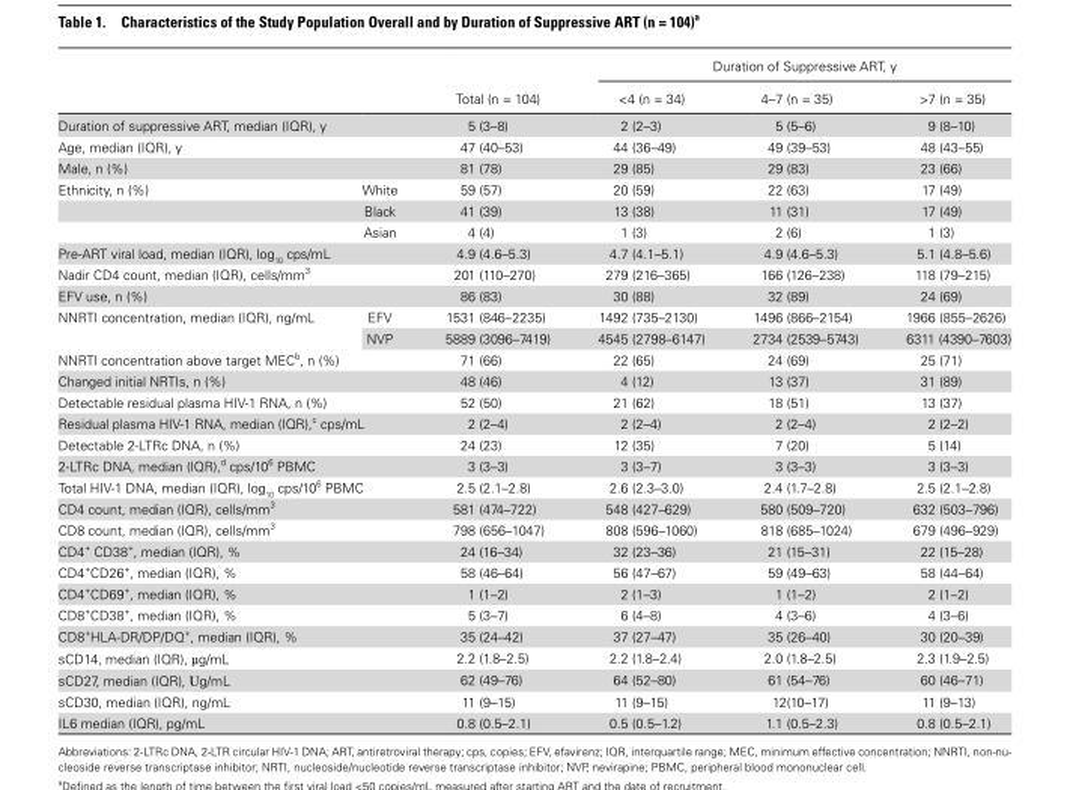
<table><thead><tr><td rowspan="2"></td><td rowspan="2"></td><td rowspan="2">Total (n = 104)</td><td colspan="3">Duration of Suppressive ART, y</td></tr><tr><td>&lt;4 (n = 34)</td><td>4–7 (n = 35)</td><td>&gt;7 (n = 35)</td></tr></thead><tbody><tr><td colspan="2">Duration of suppressive ART, median (IQR), y</td><td>5 (3–8)</td><td>2 (2–3)</td><td>5 (5–6)</td><td>9 (8–10)</td></tr><tr><td colspan="2">Age, median (IQR), y</td><td>47 (40–53)</td><td>44 (36–49)</td><td>49 (39–53)</td><td>48 (43–55)</td></tr><tr><td colspan="2">Male, n (%)</td><td>81 (78)</td><td>29 (85)</td><td>29 (83)</td><td>23 (66)</td></tr><tr><td rowspan="3">Ethnicity, n (%)</td><td>White</td><td>59 (57)</td><td>20 (59)</td><td>22 (63)</td><td>17 (49)</td></tr><tr><td>Black</td><td>41 (39)</td><td>13 (38)</td><td>11 (31)</td><td>17 (49)</td></tr><tr><td>Asian</td><td>4 (4)</td><td>1 (3)</td><td>2 (6)</td><td>1 (3)</td></tr><tr><td colspan="2">Pre-ART viral load, median (IQR), log<sub>10</sub> cps/mL</td><td>4.9 (4.6–5.3)</td><td>4.7 (4.1–5.1)</td><td>4.9 (4.6–5.3)</td><td>5.1 (4.8–5.6)</td></tr><tr><td colspan="2">Nadir CD4 count, median (IQR), cells/mm<sup>3</sup></td><td>201 (110–270)</td><td>279 (216–365)</td><td>166 (126–238)</td><td>118 (79–215)</td></tr><tr><td colspan="2">EFV use, n (%)</td><td>86 (83)</td><td>30 (88)</td><td>32 (89)</td><td>24 (69)</td></tr><tr><td rowspan="2">NNRTI concentration, median (IQR), ng/mL</td><td>EFV</td><td>1531 (846–2235)</td><td>1492 (735–2130)</td><td>1496 (866–2154)</td><td>1966 (855–2626)</td></tr><tr><td>NVP</td><td>5889 (3096–7419)</td><td>4545 (2798–6147)</td><td>2734 (2539–5743)</td><td>6311 (4390–7603)</td></tr><tr><td colspan="2">NNRTI concentration above target MEC<sup>b</sup>, n (%)</td><td>71 (66)</td><td>22 (65)</td><td>24 (69)</td><td>25 (71)</td></tr><tr><td colspan="2">Changed initial NRTIs, n (%)</td><td>48 (46)</td><td>4 (12)</td><td>13 (37)</td><td>31 (89)</td></tr><tr><td colspan="2">Detectable residual plasma HIV-1 RNA, n (%)</td><td>52 (50)</td><td>21 (62)</td><td>18 (51)</td><td>13 (37)</td></tr><tr><td colspan="2">Residual plasma HIV-1 RNA, median (IQR),<sup>c</sup> cps/mL</td><td>2 (2–4)</td><td>2 (2–4)</td><td>2 (2–4)</td><td>2 (2–2)</td></tr><tr><td colspan="2">Detectable 2-LTRc DNA, n (%)</td><td>24 (23)</td><td>12 (35)</td><td>7 (20)</td><td>5 (14)</td></tr><tr><td colspan="2">2-LTRc DNA, median (IQR),<sup>d</sup> cps/10<sup>6</sup> PBMC</td><td>3 (3–3)</td><td>3 (3–7)</td><td>3 (3–3)</td><td>3 (3–3)</td></tr><tr><td colspan="2">Total HIV-1 DNA, median (IQR), log<sub>10</sub> cps/10<sup>6</sup> PBMC</td><td>2.5 (2.1–2.8)</td><td>2.6 (2.3–3.0)</td><td>2.4 (1.7–2.8)</td><td>2.5 (2.1–2.8)</td></tr><tr><td colspan="2">CD4 count, median (IQR), cells/mm<sup>3</sup></td><td>581 (474–722)</td><td>548 (427–629)</td><td>580 (509–720)</td><td>632 (503–796)</td></tr><tr><td colspan="2">CD8 count, median (IQR), cells/mm<sup>3</sup></td><td>798 (656–1047)</td><td>808 (596–1060)</td><td>818 (685–1024)</td><td>679 (496–929)</td></tr><tr><td colspan="2">CD4<sup>+</sup> CD38<sup>+</sup>, median (IQR), %</td><td>24 (16–34)</td><td>32 (23–36)</td><td>21 (15–31)</td><td>22 (15–28)</td></tr><tr><td colspan="2">CD4<sup>+</sup>CD26<sup>+</sup>, median (IQR), %</td><td>58 (46–64)</td><td>56 (47–67)</td><td>59 (49–63)</td><td>58 (44–64)</td></tr><tr><td colspan="2">CD4<sup>+</sup>CD69<sup>+</sup>, median (IQR), %</td><td>1 (1–2)</td><td>2 (1–3)</td><td>1 (1–2)</td><td>2 (1–2)</td></tr><tr><td colspan="2">CD8<sup>+</sup>CD38<sup>+</sup>, median (IQR), %</td><td>5 (3–7)</td><td>6 (4–8)</td><td>4 (3–6)</td><td>4 (3–6)</td></tr><tr><td colspan="2">CD8<sup>+</sup>HLA-DR/DP/DQ<sup>+</sup>, median (IQR), %</td><td>35 (24–42)</td><td>37 (27–47)</td><td>35 (26–40)</td><td>30 (20–39)</td></tr><tr><td colspan="2">sCD14, median (IQR), µg/mL</td><td>2.2 (1.8–2.5)</td><td>2.2 (1.8–2.4)</td><td>2.0 (1.8–2.5)</td><td>2.3 (1.9–2.5)</td></tr><tr><td colspan="2">sCD27, median (IQR), Ug/mL</td><td>62 (49–76)</td><td>64 (52–80)</td><td>61 (54–76)</td><td>60 (46–71)</td></tr><tr><td colspan="2">sCD30, median (IQR), ng/mL</td><td>11 (9–15)</td><td>11 (9–15)</td><td>12(10–17)</td><td>11 (9–13)</td></tr><tr><td colspan="2">IL6 median (IQR), pg/mL</td><td>0.8 (0.5–2.1)</td><td>0.5 (0.5–1.2)</td><td>1.1 (0.5–2.3)</td><td>0.8 (0.5–2.1)</td></tr></tbody></table>